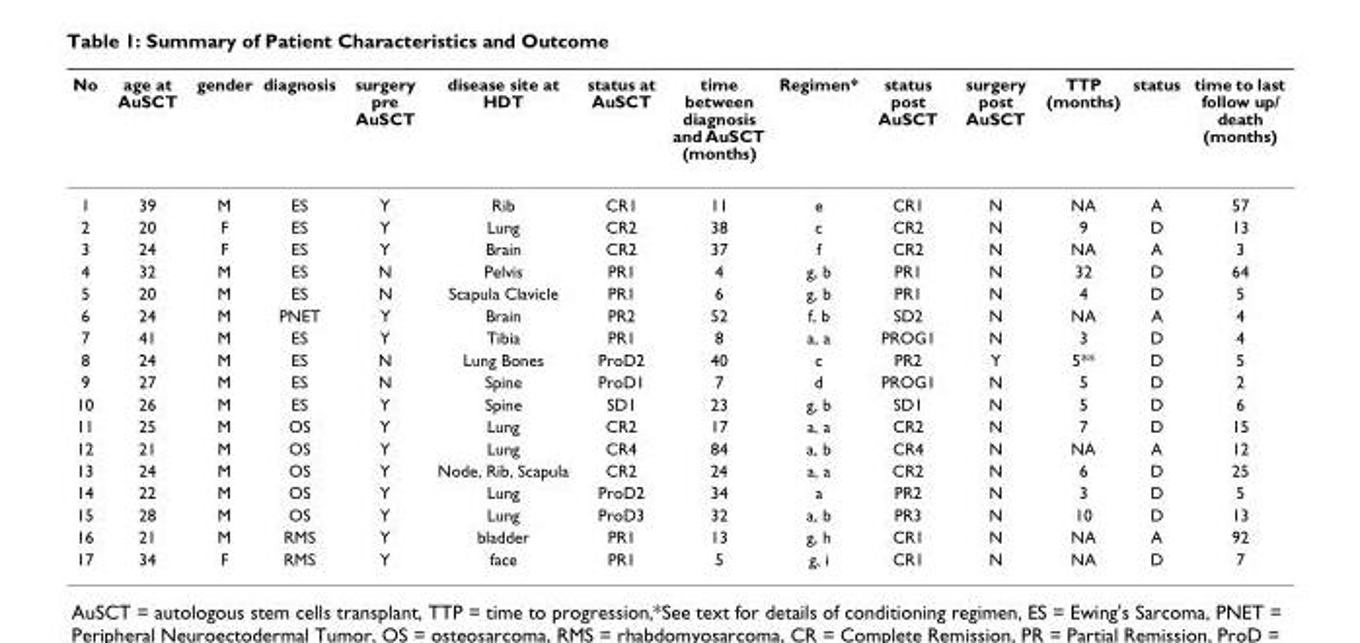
<table><thead><tr><td>No</td><td>age at AuSCT</td><td>gender</td><td>diagnosis</td><td>surgery pre AuSCT</td><td>disease site at HDT</td><td>status at AuSCT</td><td>time between diagnosis and AuSCT (months)</td><td>Regimen*</td><td>status post AuSCT</td><td>surgery post AuSCT</td><td>TTP (months)</td><td>status</td><td>time to last follow up/ death (months)</td></tr></thead><tbody><tr><td>1</td><td>39</td><td>M</td><td>ES</td><td>Y</td><td>Rib</td><td>CR1</td><td>11</td><td>e</td><td>CR1</td><td>N</td><td>NA</td><td>A</td><td>57</td></tr><tr><td>2</td><td>20</td><td>F</td><td>ES</td><td>Y</td><td>Lung</td><td>CR2</td><td>38</td><td>c</td><td>CR2</td><td>N</td><td>9</td><td>D</td><td>13</td></tr><tr><td>3</td><td>24</td><td>F</td><td>ES</td><td>Y</td><td>Brain</td><td>CR2</td><td>37</td><td>f</td><td>CR2</td><td>N</td><td>NA</td><td>A</td><td>3</td></tr><tr><td>4</td><td>32</td><td>M</td><td>ES</td><td>N</td><td>Pelvis</td><td>PR1</td><td>4</td><td>g, b</td><td>PR1</td><td>N</td><td>32</td><td>D</td><td>64</td></tr><tr><td>5</td><td>20</td><td>M</td><td>ES</td><td>N</td><td>Scapula Clavicle</td><td>PR1</td><td>6</td><td>g, b</td><td>PR1</td><td>N</td><td>4</td><td>D</td><td>5</td></tr><tr><td>6</td><td>24</td><td>M</td><td>PNET</td><td>Y</td><td>Brain</td><td>PR2</td><td>52</td><td>f, b</td><td>SD2</td><td>N</td><td>NA</td><td>A</td><td>4</td></tr><tr><td>7</td><td>41</td><td>M</td><td>ES</td><td>Y</td><td>Tibia</td><td>PR1</td><td>8</td><td>a, a</td><td>PROG1</td><td>N</td><td>3</td><td>D</td><td>4</td></tr><tr><td>8</td><td>24</td><td>M</td><td>ES</td><td>N</td><td>Lung Bones</td><td>ProD2</td><td>40</td><td>c</td><td>PR2</td><td>Y</td><td>5**</td><td>D</td><td>5</td></tr><tr><td>9</td><td>27</td><td>M</td><td>ES</td><td>N</td><td>Spine</td><td>ProD1</td><td>7</td><td>d</td><td>PROG1</td><td>N</td><td>5</td><td>D</td><td>2</td></tr><tr><td>10</td><td>26</td><td>M</td><td>ES</td><td>Y</td><td>Spine</td><td>SD1</td><td>23</td><td>g, b</td><td>SD1</td><td>N</td><td>5</td><td>D</td><td>6</td></tr><tr><td>11</td><td>25</td><td>M</td><td>OS</td><td>Y</td><td>Lung</td><td>CR2</td><td>17</td><td>a, a</td><td>CR2</td><td>N</td><td>7</td><td>D</td><td>15</td></tr><tr><td>12</td><td>21</td><td>M</td><td>OS</td><td>Y</td><td>Lung</td><td>CR4</td><td>84</td><td>a, b</td><td>CR4</td><td>N</td><td>NA</td><td>A</td><td>12</td></tr><tr><td>13</td><td>24</td><td>M</td><td>OS</td><td>Y</td><td>Node, Rib, Scapula</td><td>CR2</td><td>24</td><td>a, a</td><td>CR2</td><td>N</td><td>6</td><td>D</td><td>25</td></tr><tr><td>14</td><td>22</td><td>M</td><td>OS</td><td>Y</td><td>Lung</td><td>ProD2</td><td>34</td><td>a</td><td>PR2</td><td>N</td><td>3</td><td>D</td><td>5</td></tr><tr><td>15</td><td>28</td><td>M</td><td>OS</td><td>Y</td><td>Lung</td><td>ProD3</td><td>32</td><td>a, b</td><td>PR3</td><td>N</td><td>10</td><td>D</td><td>13</td></tr><tr><td>16</td><td>21</td><td>M</td><td>RMS</td><td>Y</td><td>bladder</td><td>PR1</td><td>13</td><td>g, h</td><td>CR1</td><td>N</td><td>NA</td><td>A</td><td>92</td></tr><tr><td>17</td><td>34</td><td>F</td><td>RMS</td><td>Y</td><td>face</td><td>PR1</td><td>5</td><td>g, i</td><td>CR1</td><td>N</td><td>NA</td><td>D</td><td>7</td></tr></tbody></table>